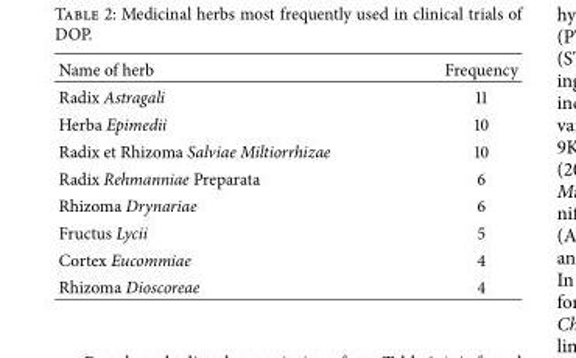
<table><thead><tr><td>Name of herb</td><td>Frequency</td></tr></thead><tbody><tr><td>Radix Astragali</td><td>11</td></tr><tr><td>Herba Epimedii</td><td>10</td></tr><tr><td>Radix et Rhizoma Salviae Miltiorrhizae</td><td>10</td></tr><tr><td>Radix Rehmanniae Preparata</td><td>6</td></tr><tr><td>Rhizoma Drynariae</td><td>6</td></tr><tr><td>Fructus Lycii</td><td>5</td></tr><tr><td>Cortex Eucommiae</td><td>4</td></tr><tr><td>Rhizoma Dioscoreae</td><td>4</td></tr></tbody></table>